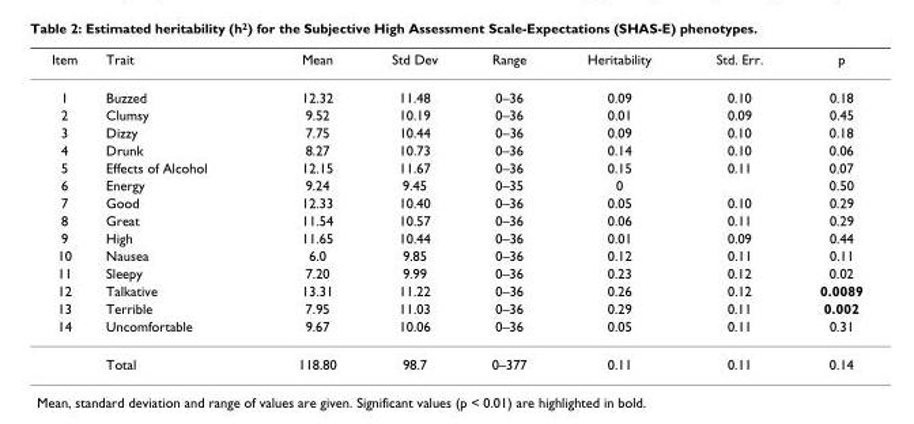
<table><thead><tr><td>Item</td><td>Trait</td><td>Mean</td><td>Std Dev</td><td>Range</td><td>Heritability</td><td>Std. Err.</td><td>p</td></tr></thead><tbody><tr><td>1</td><td>Buzzed</td><td>12.32</td><td>11.48</td><td>0–36</td><td>0.09</td><td>0.10</td><td>0.18</td></tr><tr><td>2</td><td>Clumsy</td><td>9.52</td><td>10.19</td><td>0–36</td><td>0.01</td><td>0.09</td><td>0.45</td></tr><tr><td>3</td><td>Dizzy</td><td>7.75</td><td>10.44</td><td>0–36</td><td>0.09</td><td>0.10</td><td>0.18</td></tr><tr><td>4</td><td>Drunk</td><td>8.27</td><td>10.73</td><td>0–36</td><td>0.14</td><td>0.10</td><td>0.06</td></tr><tr><td>5</td><td>Effects of Alcohol</td><td>12.15</td><td>11.67</td><td>0–36</td><td>0.15</td><td>0.11</td><td>0.07</td></tr><tr><td>6</td><td>Energy</td><td>9.24</td><td>9.45</td><td>0–35</td><td>0</td><td></td><td>0.50</td></tr><tr><td>7</td><td>Good</td><td>12.33</td><td>10.40</td><td>0–36</td><td>0.05</td><td>0.10</td><td>0.29</td></tr><tr><td>8</td><td>Great</td><td>11.54</td><td>10.57</td><td>0–36</td><td>0.06</td><td>0.11</td><td>0.29</td></tr><tr><td>9</td><td>High</td><td>11.65</td><td>10.44</td><td>0–36</td><td>0.01</td><td>0.09</td><td>0.44</td></tr><tr><td>10</td><td>Nausea</td><td>6.0</td><td>9.85</td><td>0–36</td><td>0.12</td><td>0.11</td><td>0.11</td></tr><tr><td>11</td><td>Sleepy</td><td>7.20</td><td>9.99</td><td>0–36</td><td>0.23</td><td>0.12</td><td>0.02</td></tr><tr><td>12</td><td>Talkative</td><td>13.31</td><td>11.22</td><td>0–36</td><td>0.26</td><td>0.12</td><td>0.0089</td></tr><tr><td>13</td><td>Terrible</td><td>7.95</td><td>11.03</td><td>0–36</td><td>0.29</td><td>0.11</td><td>0.002</td></tr><tr><td rowspan="2">14</td><td>Uncomfortable</td><td>9.67</td><td>10.06</td><td>0–36</td><td>0.05</td><td>0.11</td><td>0.31</td></tr><tr><td>Total</td><td>118.80</td><td>98.7</td><td>0–377</td><td>0.11</td><td>0.11</td><td>0.14</td></tr></tbody></table>